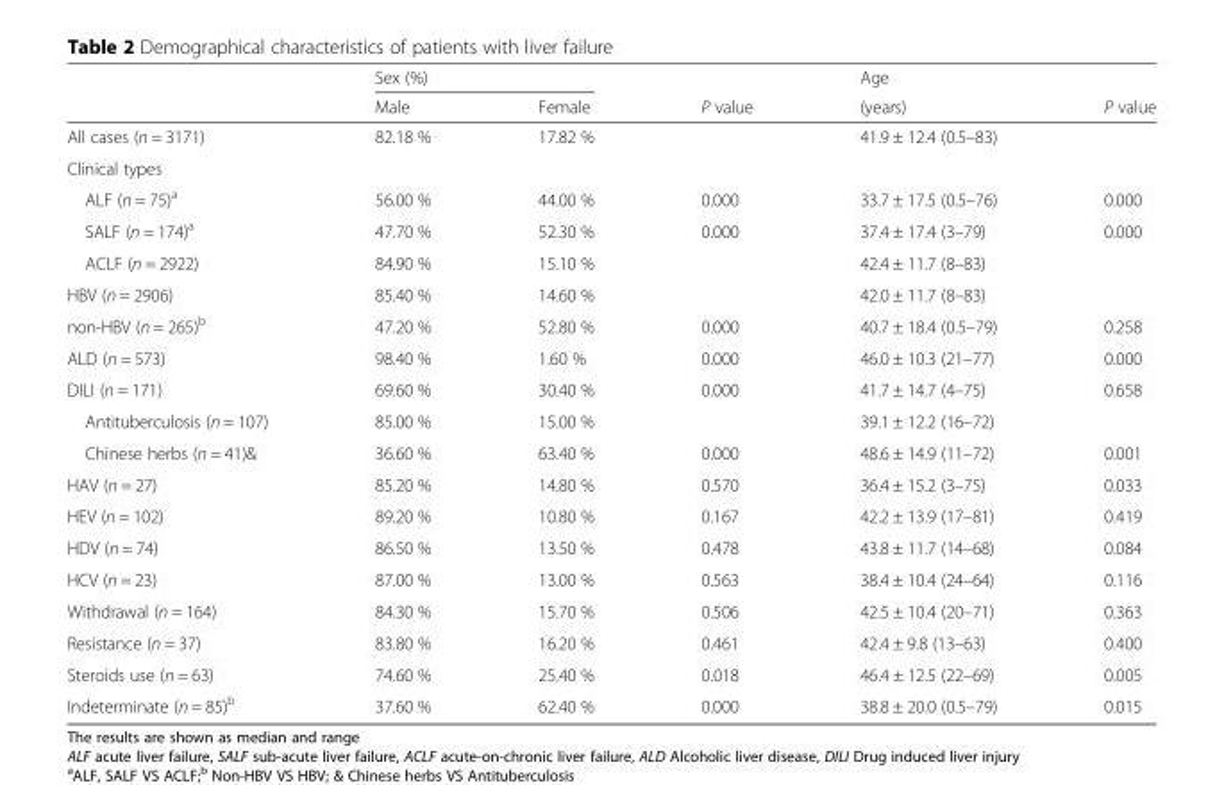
<table><thead><tr><td rowspan="2"></td><td colspan="2">Sex (%)</td><td rowspan="2">P value</td><td rowspan="2">Age (years)</td><td rowspan="2">P value</td></tr><tr><td>Male</td><td>Female</td></tr></thead><tbody><tr><td>All cases (n = 3171)</td><td>82.18 %</td><td>17.82 %</td><td></td><td>41.9 ± 12.4 (0.5–83)</td><td></td></tr><tr><td colspan="6">Clinical types</td></tr><tr><td>ALF (n = 75)<sup>a</sup></td><td>56.00 %</td><td>44.00 %</td><td>0.000</td><td>33.7 ± 17.5 (0.5–76)</td><td>0.000</td></tr><tr><td>SALF (n = 174)<sup>a</sup></td><td>47.70 %</td><td>52.30 %</td><td>0.000</td><td>37.4 ± 17.4 (3–79)</td><td>0.000</td></tr><tr><td>ACLF (n = 2922)</td><td>84.90 %</td><td>15.10 %</td><td></td><td>42.4 ± 11.7 (8–83)</td><td></td></tr><tr><td>HBV (n = 2906)</td><td>85.40 %</td><td>14.60 %</td><td></td><td>42.0 ± 11.7 (8–83)</td><td></td></tr><tr><td>non-HBV (n = 265)<sup>b</sup></td><td>47.20 %</td><td>52.80 %</td><td>0.000</td><td>40.7 ± 18.4 (0.5–79)</td><td>0.258</td></tr><tr><td>ALD (n = 573)</td><td>98.40 %</td><td>1.60 %</td><td>0.000</td><td>46.0 ± 10.3 (21–77)</td><td>0.000</td></tr><tr><td>DILI (n = 171)</td><td>69.60 %</td><td>30.40 %</td><td>0.000</td><td>41.7 ± 14.7 (4–75)</td><td>0.658</td></tr><tr><td>Antituberculosis (n = 107)</td><td>85.00 %</td><td>15.00 %</td><td></td><td>39.1 ± 12.2 (16–72)</td><td></td></tr><tr><td>Chinese herbs (n = 41)&amp;</td><td>36.60 %</td><td>63.40 %</td><td>0.000</td><td>48.6 ± 14.9 (11–72)</td><td>0.001</td></tr><tr><td>HAV (n = 27)</td><td>85.20 %</td><td>14.80 %</td><td>0.570</td><td>36.4 ± 15.2 (3–75)</td><td>0.033</td></tr><tr><td>HEV (n = 102)</td><td>89.20 %</td><td>10.80 %</td><td>0.167</td><td>42.2 ± 13.9 (17–81)</td><td>0.419</td></tr><tr><td>HDV (n = 74)</td><td>86.50 %</td><td>13.50 %</td><td>0.478</td><td>43.8 ± 11.7 (14–68)</td><td>0.084</td></tr><tr><td>HCV (n = 23)</td><td>87.00 %</td><td>13.00 %</td><td>0.563</td><td>38.4 ± 10.4 (24–64)</td><td>0.116</td></tr><tr><td>Withdrawal (n = 164)</td><td>84.30 %</td><td>15.70 %</td><td>0.506</td><td>42.5 ± 10.4 (20–71)</td><td>0.363</td></tr><tr><td>Resistance (n = 37)</td><td>83.80 %</td><td>16.20 %</td><td>0.461</td><td>42.4 ± 9.8 (13–63)</td><td>0.400</td></tr><tr><td>Steroids use (n = 63)</td><td>74.60 %</td><td>25.40 %</td><td>0.018</td><td>46.4 ± 12.5 (22–69)</td><td>0.005</td></tr><tr><td>Indeterminate (n = 85)<sup>b</sup></td><td>37.60 %</td><td>62.40 %</td><td>0.000</td><td>38.8 ± 20.0 (0.5–79)</td><td>0.015</td></tr></tbody></table>